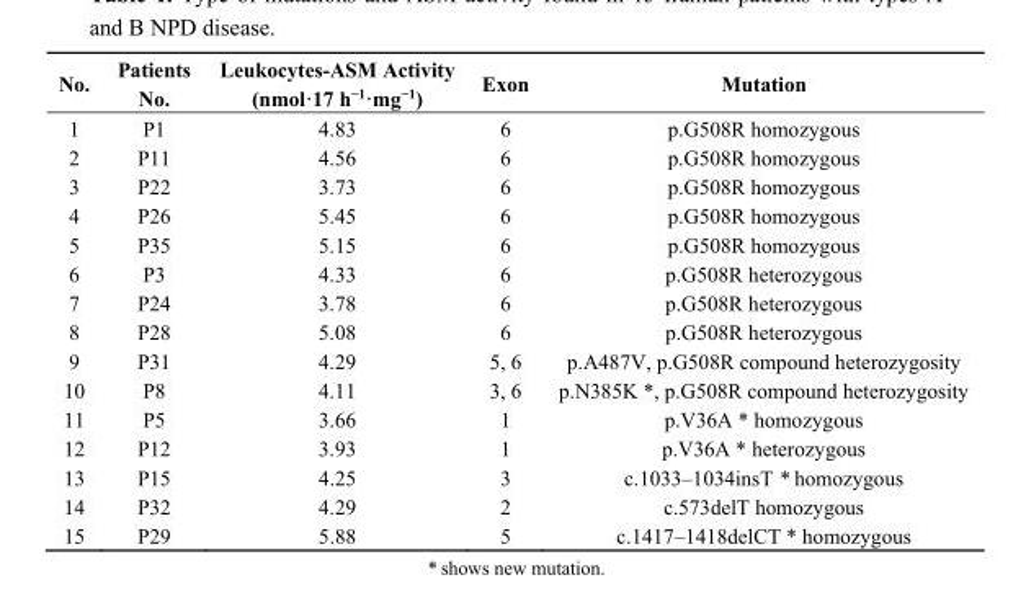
<table><thead><tr><td>No.</td><td>Patients No.</td><td>Leukocytes-ASM Activity (nmol·17 h<sup>−1</sup>·mg<sup>−1</sup>)</td><td>Exon</td><td>Mutation</td></tr></thead><tbody><tr><td>1</td><td>P1</td><td>4.83</td><td>6</td><td>p.G508R homozygous</td></tr><tr><td>2</td><td>P11</td><td>4.56</td><td>6</td><td>p.G508R homozygous</td></tr><tr><td>3</td><td>P22</td><td>3.73</td><td>6</td><td>p.G508R homozygous</td></tr><tr><td>4</td><td>P26</td><td>5.45</td><td>6</td><td>p.G508R homozygous</td></tr><tr><td>5</td><td>P35</td><td>5.15</td><td>6</td><td>p.G508R homozygous</td></tr><tr><td>6</td><td>P3</td><td>4.33</td><td>6</td><td>p.G508R heterozygous</td></tr><tr><td>7</td><td>P24</td><td>3.78</td><td>6</td><td>p.G508R heterozygous</td></tr><tr><td>8</td><td>P28</td><td>5.08</td><td>6</td><td>p.G508R heterozygous</td></tr><tr><td>9</td><td>P31</td><td>4.29</td><td>5, 6</td><td>p.A487V, p.G508R compound heterozygosity</td></tr><tr><td>10</td><td>P8</td><td>4.11</td><td>3, 6</td><td>p.N385K *, p.G508R compound heterozygosity</td></tr><tr><td>11</td><td>P5</td><td>3.66</td><td>1</td><td>p.V36A * homozygous</td></tr><tr><td>12</td><td>P12</td><td>3.93</td><td>1</td><td>p.V36A * heterozygous</td></tr><tr><td>13</td><td>P15</td><td>4.25</td><td>3</td><td>c.1033–1034insT * homozygous</td></tr><tr><td>14</td><td>P32</td><td>4.29</td><td>2</td><td>c.573delT homozygous</td></tr><tr><td>15</td><td>P29</td><td>5.88</td><td>5</td><td>c.1417–1418delCT * homozygous</td></tr></tbody></table>